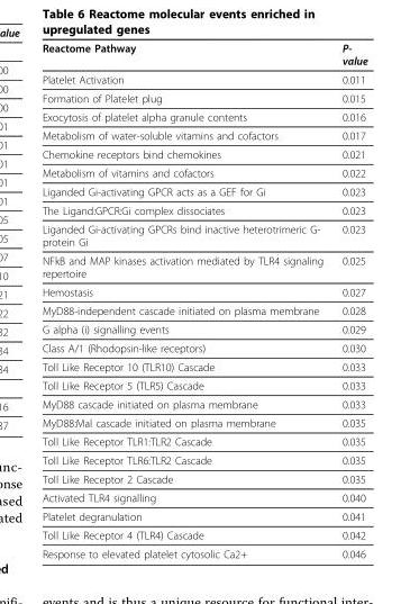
<table><thead><tr><td>Reactome Pathway</td><td>P- value</td></tr></thead><tbody><tr><td>Platelet Activation</td><td>0.011</td></tr><tr><td>Formation of Platelet plug</td><td>0.015</td></tr><tr><td>Exocytosis of platelet alpha granule contents</td><td>0.016</td></tr><tr><td>Metabolism of water-soluble vitamins and cofactors</td><td>0.017</td></tr><tr><td>Chemokine receptors bind chemokines</td><td>0.021</td></tr><tr><td>Metabolism of vitamins and cofactors</td><td>0.022</td></tr><tr><td>Liganded Gi-activating GPCR acts as a GEF for Gi</td><td>0.023</td></tr><tr><td>The Ligand:GPCR:Gi complex dissociates</td><td>0.023</td></tr><tr><td>Liganded Gi-activating GPCRs bind inactive heterotrimeric G- protein Gi</td><td>0.023</td></tr><tr><td>NFkB and MAP kinases activation mediated by TLR4 signaling repertoire</td><td>0.025</td></tr><tr><td>Hemostasis</td><td>0.027</td></tr><tr><td>MyD88-independent cascade initiated on plasma membrane</td><td>0.028</td></tr><tr><td>G alpha (i) signalling events</td><td>0.029</td></tr><tr><td>Class A/1 (Rhodopsin-like receptors)</td><td>0.030</td></tr><tr><td>Toll Like Receptor 10 (TLR10) Cascade</td><td>0.033</td></tr><tr><td>Toll Like Receptor 5 (TLR5) Cascade</td><td>0.033</td></tr><tr><td>MyD88 cascade initiated on plasma membrane</td><td>0.033</td></tr><tr><td>MyD88:Mal cascade initiated on plasma membrane</td><td>0.035</td></tr><tr><td>Toll Like Receptor TLR1:TLR2 Cascade</td><td>0.035</td></tr><tr><td>Toll Like Receptor TLR6:TLR2 Cascade</td><td>0.035</td></tr><tr><td>Toll Like Receptor 2 Cascade</td><td>0.035</td></tr><tr><td>Activated TLR4 signalling</td><td>0.040</td></tr><tr><td>Platelet degranulation</td><td>0.041</td></tr><tr><td>Toll Like Receptor 4 (TLR4) Cascade</td><td>0.042</td></tr><tr><td>Response to elevated platelet cytosolic Ca2+</td><td>0.046</td></tr></tbody></table>